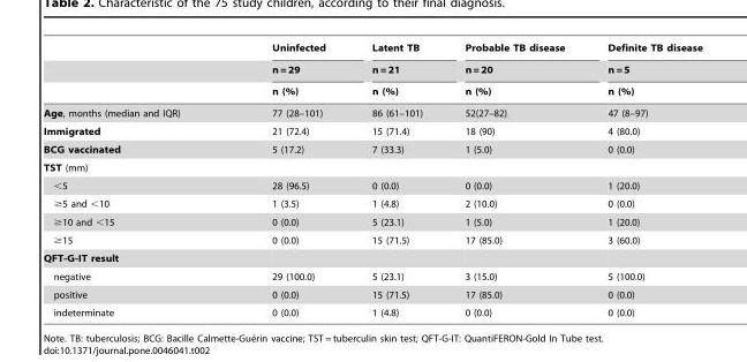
<table><thead><tr><td rowspan="3"></td><td rowspan="3">Uninfected n = 29 n (%)</td><td rowspan="3">Latent TB n = 21 n (%)</td><td rowspan="3">Probable TB disease n = 20 n (%)</td><td rowspan="3">Definite TB disease n = 5 n (%)</td></tr><tr></tr><tr></tr></thead><tbody><tr><td>Age, months (median and IQR)</td><td>77 (28–101)</td><td>86 (61–101)</td><td>52(27–82)</td><td>47 (8–97)</td></tr><tr><td>Immigrated</td><td>21 (72.4)</td><td>15 (71.4)</td><td>18 (90)</td><td>4 (80.0)</td></tr><tr><td>BCG vaccinated</td><td>5 (17.2)</td><td>7 (33.3)</td><td>1 (5.0)</td><td>0 (0.0)</td></tr><tr><td colspan="5">TST (mm)</td></tr><tr><td>&lt;5</td><td>28 (96.5)</td><td>0 (0.0)</td><td>0 (0.0)</td><td>1 (20.0)</td></tr><tr><td>≥5 and &lt;10</td><td>1 (3.5)</td><td>1 (4.8)</td><td>2 (10.0)</td><td>0 (0.0)</td></tr><tr><td>≥10 and &lt;15</td><td>0 (0.0)</td><td>5 (23.1)</td><td>1 (5.0)</td><td>1 (20.0)</td></tr><tr><td>≥15</td><td>0 (0.0)</td><td>15 (71.5)</td><td>17 (85.0)</td><td>3 (60.0)</td></tr><tr><td colspan="5">QFT-G-IT result</td></tr><tr><td>negative</td><td>29 (100.0)</td><td>5 (23.1)</td><td>3 (15.0)</td><td>5 (100.0)</td></tr><tr><td>positive</td><td>0 (0.0)</td><td>15 (71.5)</td><td>17 (85.0)</td><td>0 (0.0)</td></tr><tr><td>indeterminate</td><td>0 (0.0)</td><td>1 (4.8)</td><td>0 (0.0)</td><td>0 (0.0)</td></tr></tbody></table>